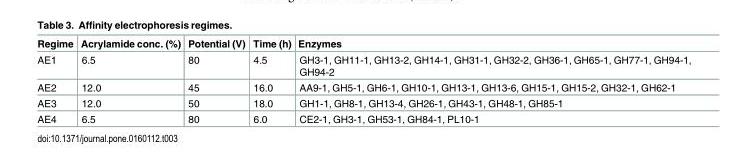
<table><thead><tr><td>Regime</td><td>Acrylamide conc. (%)</td><td>Potential (V)</td><td>Time (h)</td><td>Enzymes</td></tr></thead><tbody><tr><td>AE1</td><td>6.5</td><td>80</td><td>4.5</td><td>GH3-1, GH11-1, GH13-2, GH14-1, GH31-1, GH32-2, GH36-1, GH65-1, GH77-1, GH94-1, GH94-2</td></tr><tr><td>AE2</td><td>12.0</td><td>45</td><td>16.0</td><td>AA9-1, GH5-1, GH6-1, GH10-1, GH13-1, GH13-6, GH15-1, GH15-2, GH32-1, GH62-1</td></tr><tr><td>AE3</td><td>12.0</td><td>50</td><td>18.0</td><td>GH1-1, GH8-1, GH13-4, GH26-1, GH43-1, GH48-1, GH85-1</td></tr><tr><td>AE4</td><td>6.5</td><td>80</td><td>6.0</td><td>CE2-1, GH3-1, GH53-1, GH84-1, PL10-1</td></tr></tbody></table>